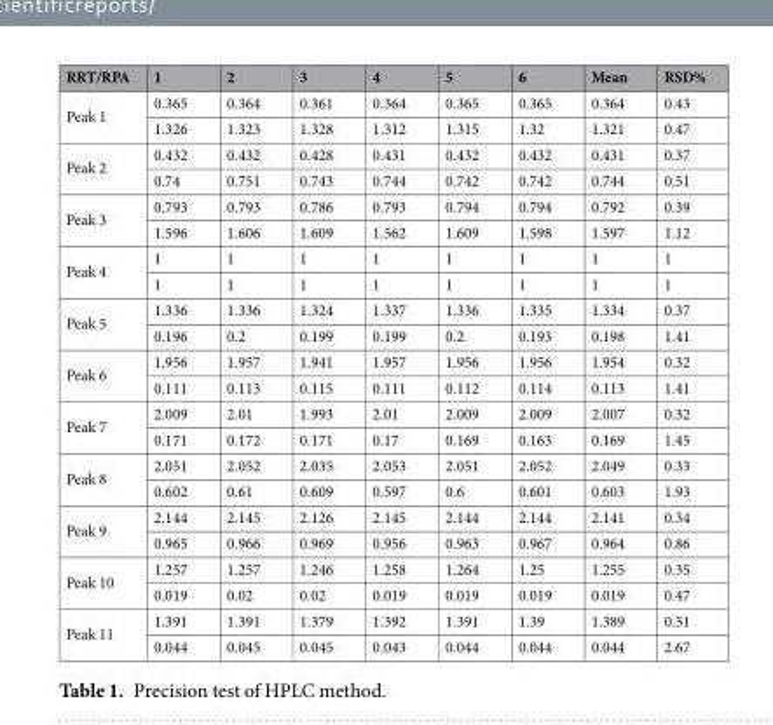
<table><thead><tr><td>RRT/RPA</td><td>1</td><td>2</td><td>3</td><td>4</td><td>5</td><td>6</td><td>Mean</td><td>RSD%</td></tr></thead><tbody><tr><td rowspan="2">Peak 1</td><td>0.365</td><td>0.364</td><td>0.361</td><td>0.364</td><td>0.365</td><td>0.365</td><td>0.364</td><td>0.43</td></tr><tr><td>1.326</td><td>1.323</td><td>1.328</td><td>1.312</td><td>1.315</td><td>1.32</td><td>1.321</td><td>0.47</td></tr><tr><td rowspan="2">Peak 2</td><td>0.432</td><td>0.432</td><td>0.428</td><td>0.431</td><td>0.432</td><td>0.432</td><td>0.431</td><td>0.37</td></tr><tr><td>0.74</td><td>0.751</td><td>0.743</td><td>0.744</td><td>0.742</td><td>0.742</td><td>0.744</td><td>0.51</td></tr><tr><td rowspan="2">Peak 3</td><td>0.793</td><td>0.793</td><td>0.786</td><td>0.793</td><td>0.794</td><td>0.794</td><td>0.792</td><td>0.39</td></tr><tr><td>1.596</td><td>1.606</td><td>1.609</td><td>1.562</td><td>1.609</td><td>1.598</td><td>1.597</td><td>1.12</td></tr><tr><td rowspan="2">Peak 4</td><td>1</td><td>1</td><td>1</td><td>1</td><td>1</td><td>1</td><td>1</td><td>1</td></tr><tr><td>1</td><td>1</td><td>1</td><td>1</td><td>1</td><td>1</td><td>1</td><td>1</td></tr><tr><td rowspan="2">Peak 5</td><td>1.336</td><td>1.336</td><td>1.324</td><td>1.337</td><td>1.336</td><td>1.335</td><td>1.334</td><td>0.37</td></tr><tr><td>0.196</td><td>0.2</td><td>0.199</td><td>0.199</td><td>0.2</td><td>0.193</td><td>0.198</td><td>1.41</td></tr><tr><td rowspan="2">Peak 6</td><td>1.956</td><td>1.957</td><td>1.941</td><td>1.957</td><td>1.956</td><td>1.956</td><td>1.954</td><td>0.32</td></tr><tr><td>0.111</td><td>0.113</td><td>0.115</td><td>0.111</td><td>0.112</td><td>0.114</td><td>0.113</td><td>1.41</td></tr><tr><td rowspan="2">Peak 7</td><td>2.009</td><td>2.01</td><td>1.993</td><td>2.01</td><td>2.009</td><td>2.009</td><td>2.007</td><td>0.32</td></tr><tr><td>0.171</td><td>0.172</td><td>0.171</td><td>0.17</td><td>0.169</td><td>0.163</td><td>0.169</td><td>1.45</td></tr><tr><td rowspan="2">Peak 8</td><td>2.051</td><td>2.052</td><td>2.035</td><td>2.053</td><td>2.051</td><td>2.052</td><td>2.049</td><td>0.33</td></tr><tr><td>0.602</td><td>0.61</td><td>0.609</td><td>0.597</td><td>0.6</td><td>0.601</td><td>0.603</td><td>1.93</td></tr><tr><td rowspan="2">Peak 9</td><td>2.144</td><td>2.145</td><td>2.126</td><td>2.145</td><td>2.144</td><td>2.144</td><td>2.141</td><td>0.34</td></tr><tr><td>0.965</td><td>0.966</td><td>0.969</td><td>0.956</td><td>0.963</td><td>0.967</td><td>0.964</td><td>0.86</td></tr><tr><td rowspan="2">Peak 10</td><td>1.257</td><td>1.257</td><td>1.246</td><td>1.258</td><td>1.264</td><td>1.25</td><td>1.255</td><td>0.35</td></tr><tr><td>0.019</td><td>0.02</td><td>0.02</td><td>0.019</td><td>0.019</td><td>0.019</td><td>0.019</td><td>0.47</td></tr><tr><td rowspan="2">Peak 11</td><td>1.391</td><td>1.391</td><td>1.379</td><td>1.392</td><td>1.391</td><td>1.39</td><td>1.389</td><td>0.51</td></tr><tr><td>0.044</td><td>0.045</td><td>0.045</td><td>0.043</td><td>0.044</td><td>0.044</td><td>0.044</td><td>2.67</td></tr></tbody></table>